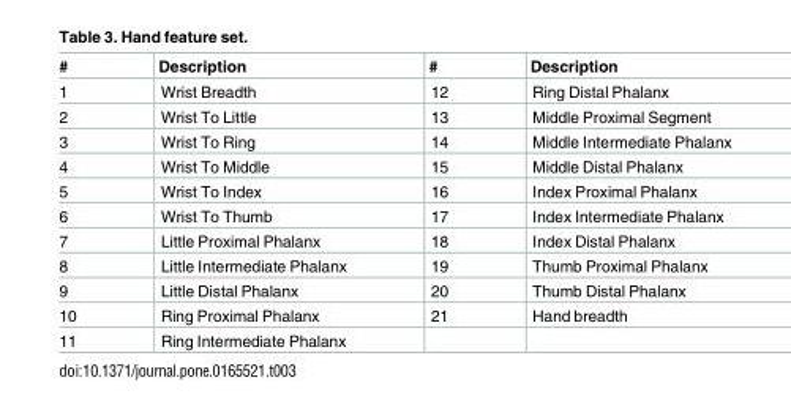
<table><thead><tr><td>#</td><td>Description</td><td>#</td><td>Description</td></tr></thead><tbody><tr><td>1</td><td>Wrist Breadth</td><td>12</td><td>Ring Distal Phalanx</td></tr><tr><td>2</td><td>Wrist To Little</td><td>13</td><td>Middle Proximal Segment</td></tr><tr><td>3</td><td>Wrist To Ring</td><td>14</td><td>Middle Intermediate Phalanx</td></tr><tr><td>4</td><td>Wrist To Middle</td><td>15</td><td>Middle Distal Phalanx</td></tr><tr><td>5</td><td>Wrist To Index</td><td>16</td><td>Index Proximal Phalanx</td></tr><tr><td>6</td><td>Wrist To Thumb</td><td>17</td><td>Index Intermediate Phalanx</td></tr><tr><td>7</td><td>Little Proximal Phalanx</td><td>18</td><td>Index Distal Phalanx</td></tr><tr><td>8</td><td>Little Intermediate Phalanx</td><td>19</td><td>Thumb Proximal Phalanx</td></tr><tr><td>9</td><td>Little Distal Phalanx</td><td>20</td><td>Thumb Distal Phalanx</td></tr><tr><td>10</td><td>Ring Proximal Phalanx</td><td>21</td><td>Hand breadth</td></tr><tr><td>11</td><td>Ring Intermediate Phalanx</td><td></td><td></td></tr></tbody></table>